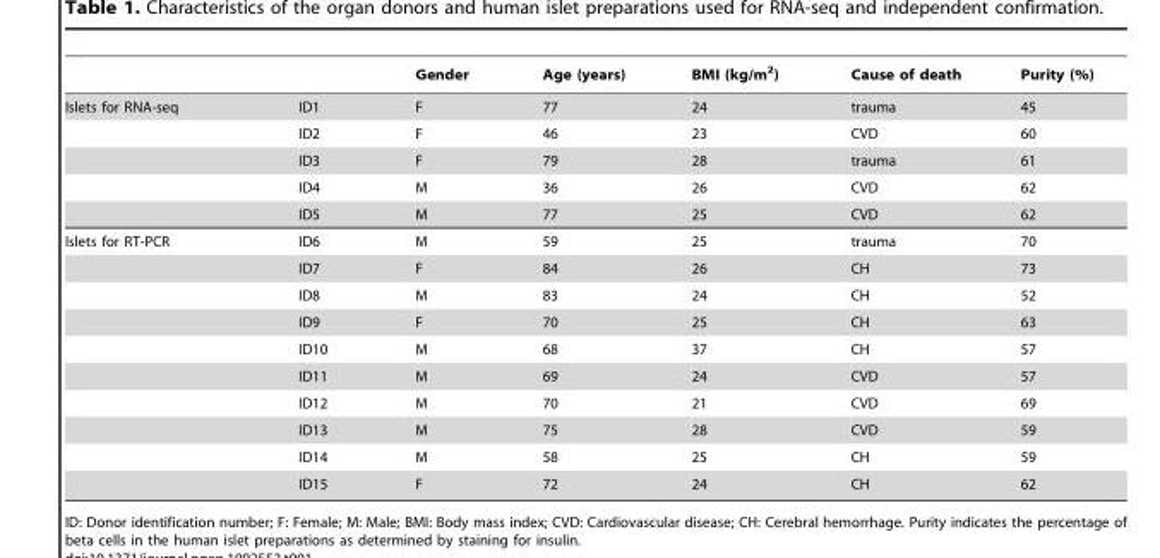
<table><thead><tr><td></td><td></td><td>Gender</td><td>Age (years)</td><td>BMI (kg/m<sup>2</sup>)</td><td>Cause of death</td><td>Purity (%)</td></tr></thead><tbody><tr><td rowspan="5">Islets for RNA-seq</td><td>ID1</td><td>F</td><td>77</td><td>24</td><td>trauma</td><td>45</td></tr><tr><td>ID2</td><td>F</td><td>46</td><td>23</td><td>CVD</td><td>60</td></tr><tr><td>ID3</td><td>F</td><td>79</td><td>28</td><td>trauma</td><td>61</td></tr><tr><td>ID4</td><td>M</td><td>36</td><td>26</td><td>CVD</td><td>62</td></tr><tr><td>ID5</td><td>M</td><td>77</td><td>25</td><td>CVD</td><td>62</td></tr><tr><td rowspan="10">Islets for RT-PCR</td><td>ID6</td><td>M</td><td>59</td><td>25</td><td>trauma</td><td>70</td></tr><tr><td>ID7</td><td>F</td><td>84</td><td>26</td><td>CH</td><td>73</td></tr><tr><td>ID8</td><td>M</td><td>83</td><td>24</td><td>CH</td><td>52</td></tr><tr><td>ID9</td><td>F</td><td>70</td><td>25</td><td>CH</td><td>63</td></tr><tr><td>ID10</td><td>M</td><td>68</td><td>37</td><td>CH</td><td>57</td></tr><tr><td>ID11</td><td>M</td><td>69</td><td>24</td><td>CVD</td><td>57</td></tr><tr><td>ID12</td><td>M</td><td>70</td><td>21</td><td>CVD</td><td>69</td></tr><tr><td>ID13</td><td>M</td><td>75</td><td>28</td><td>CVD</td><td>59</td></tr><tr><td>ID14</td><td>M</td><td>58</td><td>25</td><td>CH</td><td>59</td></tr><tr><td>ID15</td><td>F</td><td>72</td><td>24</td><td>CH</td><td>62</td></tr></tbody></table>